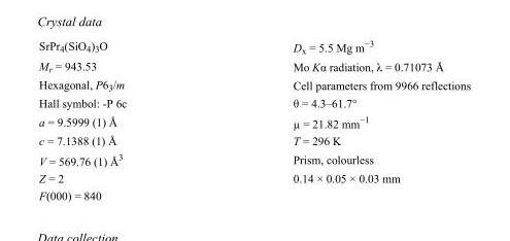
<table><tbody><tr><td>SrPr<sub>4</sub>(SiO<sub>4</sub>)<sub>3</sub>O</td><td>D<sub>x</sub> = 5.5 Mg m<sup>−3</sup></td></tr><tr><td>M<sub>r</sub> = 943.53</td><td>Mo Kα radiation, λ = 0.71073 Å</td></tr><tr><td>Hexagonal, P6<sub>3</sub>/m</td><td>Cell parameters from 9966 reflections</td></tr><tr><td>Hall symbol: -P 6c</td><td>θ = 4.3–61.7°</td></tr><tr><td>a = 9.5999 (1) Å</td><td>µ = 21.82 mm<sup>−1</sup></td></tr><tr><td>c = 7.1388 (1) Å</td><td>T = 296 K</td></tr><tr><td>V = 569.76 (1) Å<sup>3</sup></td><td>Prism, colourless</td></tr><tr><td>Z = 2</td><td>0.14 × 0.05 × 0.03 mm</td></tr><tr><td>F(000) = 840</td><td></td></tr></tbody></table>